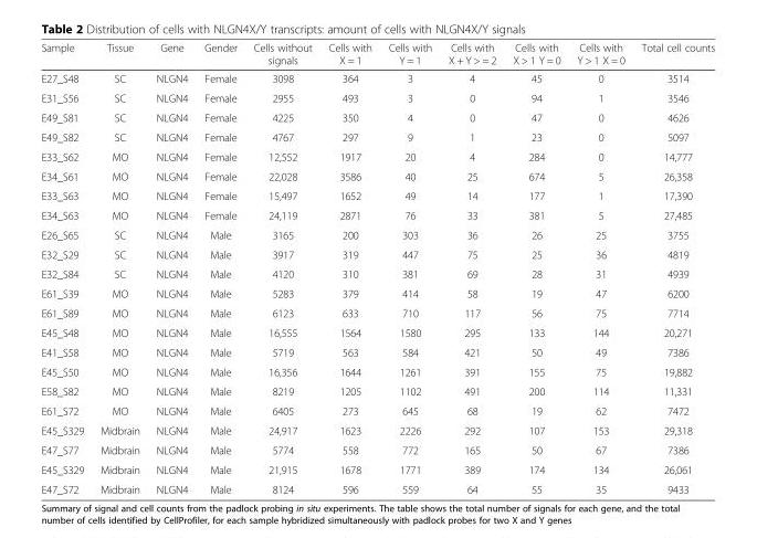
<table><thead><tr><td>Sample</td><td>Tissue</td><td>Gene</td><td>Gender</td><td>Cells without signals</td><td>Cells with X = 1</td><td>Cells with Y = 1</td><td>Cells with X + Y &gt; = 2</td><td>Cells with X &gt; 1 Y = 0</td><td>Cells with Y &gt; 1 X = 0</td><td>Total cell counts</td></tr></thead><tbody><tr><td>E27_S48</td><td>SC</td><td>NLGN4</td><td>Female</td><td>3098</td><td>364</td><td>3</td><td>4</td><td>45</td><td>0</td><td>3514</td></tr><tr><td>E31_S56</td><td>SC</td><td>NLGN4</td><td>Female</td><td>2955</td><td>493</td><td>3</td><td>0</td><td>94</td><td>1</td><td>3546</td></tr><tr><td>E49_S81</td><td>SC</td><td>NLGN4</td><td>Female</td><td>4225</td><td>350</td><td>4</td><td>0</td><td>47</td><td>0</td><td>4626</td></tr><tr><td>E49_S82</td><td>SC</td><td>NLGN4</td><td>Female</td><td>4767</td><td>297</td><td>9</td><td>1</td><td>23</td><td>0</td><td>5097</td></tr><tr><td>E33_S62</td><td>MO</td><td>NLGN4</td><td>Female</td><td>12,552</td><td>1917</td><td>20</td><td>4</td><td>284</td><td>0</td><td>14,777</td></tr><tr><td>E34_S61</td><td>MO</td><td>NLGN4</td><td>Female</td><td>22,028</td><td>3586</td><td>40</td><td>25</td><td>674</td><td>5</td><td>26,358</td></tr><tr><td>E33_S63</td><td>MO</td><td>NLGN4</td><td>Female</td><td>15,497</td><td>1652</td><td>49</td><td>14</td><td>177</td><td>1</td><td>17,390</td></tr><tr><td>E34_S63</td><td>MO</td><td>NLGN4</td><td>Female</td><td>24,119</td><td>2871</td><td>76</td><td>33</td><td>381</td><td>5</td><td>27,485</td></tr><tr><td>E26_S65</td><td>SC</td><td>NLGN4</td><td>Male</td><td>3165</td><td>200</td><td>303</td><td>36</td><td>26</td><td>25</td><td>3755</td></tr><tr><td>E32_S29</td><td>SC</td><td>NLGN4</td><td>Male</td><td>3917</td><td>319</td><td>447</td><td>75</td><td>25</td><td>36</td><td>4819</td></tr><tr><td>E32_S84</td><td>SC</td><td>NLGN4</td><td>Male</td><td>4120</td><td>310</td><td>381</td><td>69</td><td>28</td><td>31</td><td>4939</td></tr><tr><td>E61_S39</td><td>MO</td><td>NLGN4</td><td>Male</td><td>5283</td><td>379</td><td>414</td><td>58</td><td>19</td><td>47</td><td>6200</td></tr><tr><td>E61_S89</td><td>MO</td><td>NLGN4</td><td>Male</td><td>6123</td><td>633</td><td>710</td><td>117</td><td>56</td><td>75</td><td>7714</td></tr><tr><td>E45_S48</td><td>MO</td><td>NLGN4</td><td>Male</td><td>16,555</td><td>1564</td><td>1580</td><td>295</td><td>133</td><td>144</td><td>20,271</td></tr><tr><td>E41_S58</td><td>MO</td><td>NLGN4</td><td>Male</td><td>5719</td><td>563</td><td>584</td><td>421</td><td>50</td><td>49</td><td>7386</td></tr><tr><td>E45_S50</td><td>MO</td><td>NLGN4</td><td>Male</td><td>16,356</td><td>1644</td><td>1261</td><td>391</td><td>155</td><td>75</td><td>19,882</td></tr><tr><td>E58_S82</td><td>MO</td><td>NLGN4</td><td>Male</td><td>8219</td><td>1205</td><td>1102</td><td>491</td><td>200</td><td>114</td><td>11,331</td></tr><tr><td>E61_S72</td><td>MO</td><td>NLGN4</td><td>Male</td><td>6405</td><td>273</td><td>645</td><td>68</td><td>19</td><td>62</td><td>7472</td></tr><tr><td>E45_S329</td><td>Midbrain</td><td>NLGN4</td><td>Male</td><td>24,917</td><td>1623</td><td>2226</td><td>292</td><td>107</td><td>153</td><td>29,318</td></tr><tr><td>E47_S77</td><td>Midbrain</td><td>NLGN4</td><td>Male</td><td>5774</td><td>558</td><td>772</td><td>165</td><td>50</td><td>67</td><td>7386</td></tr><tr><td>E45_S329</td><td>Midbrain</td><td>NLGN4</td><td>Male</td><td>21,915</td><td>1678</td><td>1771</td><td>389</td><td>174</td><td>134</td><td>26,061</td></tr><tr><td>E47_S72</td><td>Midbrain</td><td>NLGN4</td><td>Male</td><td>8124</td><td>596</td><td>559</td><td>64</td><td>55</td><td>35</td><td>9433</td></tr></tbody></table>